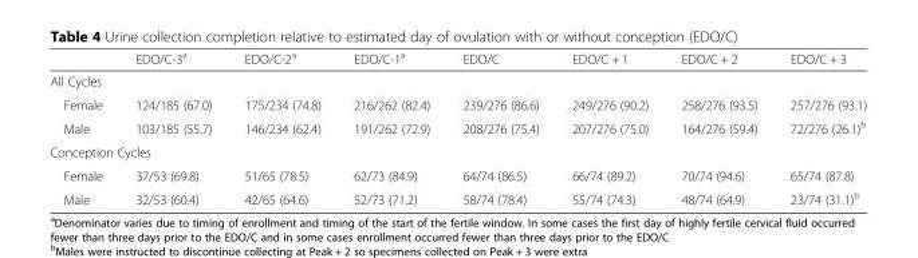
<table><thead><tr><td></td><td>EDO/C-3<sup>a</sup></td><td>EDO/C-2<sup>a</sup></td><td>EDO/C-1<sup>a</sup></td><td>EDO/C</td><td>EDO/C + 1</td><td>EDO/C + 2</td><td>EDO/C + 3</td></tr></thead><tbody><tr><td colspan="8">All Cycles</td></tr><tr><td>Female</td><td>124/185 (67.0)</td><td>175/234 (74.8)</td><td>216/262 (82.4)</td><td>239/276 (86.6)</td><td>249/276 (90.2)</td><td>258/276 (93.5)</td><td>257/276 (93.1)</td></tr><tr><td>Male</td><td>103/185 (55.7)</td><td>146/234 (62.4)</td><td>191/262 (72.9)</td><td>208/276 (75.4)</td><td>207/276 (75.0)</td><td>164/276 (59.4)</td><td>72/276 (26.1)<sup>b</sup></td></tr><tr><td colspan="8">Conception Cycles</td></tr><tr><td>Female</td><td>37/53 (69.8)</td><td>51/65 (78.5)</td><td>62/73 (84.9)</td><td>64/74 (86.5)</td><td>66/74 (89.2)</td><td>70/74 (94.6)</td><td>65/74 (87.8)</td></tr><tr><td>Male</td><td>32/53 (60.4)</td><td>42/65 (64.6)</td><td>52/73 (71.2)</td><td>58/74 (78.4)</td><td>55/74 (74.3)</td><td>48/74 (64.9)</td><td>23/74 (31.1)<sup>b</sup></td></tr></tbody></table>